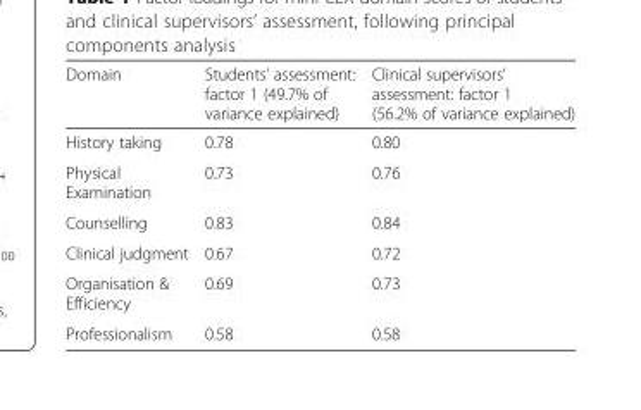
<table><thead><tr><td>Domain</td><td>Students’ assessment: factor 1 (49.7% of variance explained)</td><td>Clinical supervisors’ assessment: factor 1 (56.2% of variance explained)</td></tr></thead><tbody><tr><td>History taking</td><td>0.78</td><td>0.80</td></tr><tr><td>Physical Examination</td><td>0.73</td><td>0.76</td></tr><tr><td>Counselling</td><td>0.83</td><td>0.84</td></tr><tr><td>Clinical judgment</td><td>0.67</td><td>0.72</td></tr><tr><td>Organisation &amp; Efficiency</td><td>0.69</td><td>0.73</td></tr><tr><td>Professionalism</td><td>0.58</td><td>0.58</td></tr></tbody></table>